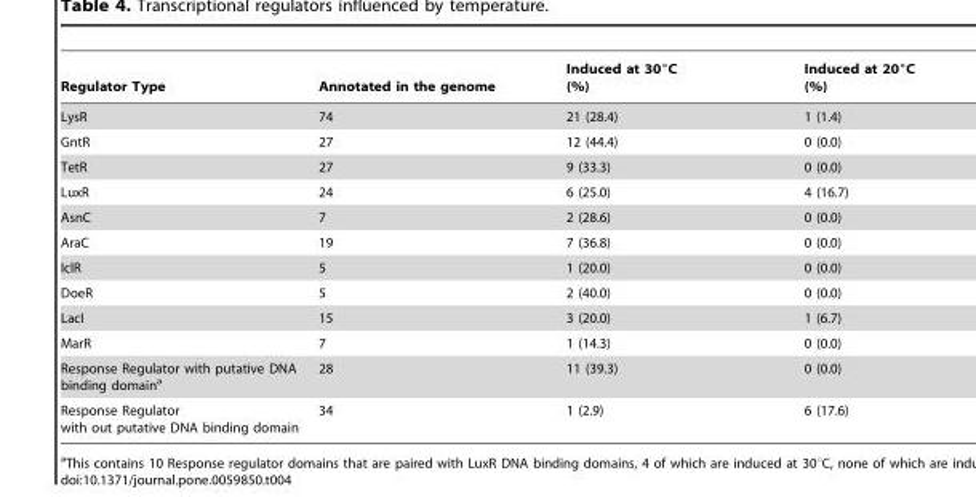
<table><thead><tr><td>Regulator Type</td><td>Annotated in the genome</td><td>Induced at 30°C (%)</td><td>Induced at 20°C (%)</td></tr></thead><tbody><tr><td>LysR</td><td>74</td><td>21 (28.4)</td><td>1 (1.4)</td></tr><tr><td>GntR</td><td>27</td><td>12 (44.4)</td><td>0 (0.0)</td></tr><tr><td>TetR</td><td>27</td><td>9 (33.3)</td><td>0 (0.0)</td></tr><tr><td>LuxR</td><td>24</td><td>6 (25.0)</td><td>4 (16.7)</td></tr><tr><td>AsnC</td><td>7</td><td>2 (28.6)</td><td>0 (0.0)</td></tr><tr><td>AraC</td><td>19</td><td>7 (36.8)</td><td>0 (0.0)</td></tr><tr><td>IclR</td><td>5</td><td>1 (20.0)</td><td>0 (0.0)</td></tr><tr><td>DoeR</td><td>5</td><td>2 (40.0)</td><td>0 (0.0)</td></tr><tr><td>LacI</td><td>15</td><td>3 (20.0)</td><td>1 (6.7)</td></tr><tr><td>MarR</td><td>7</td><td>1 (14.3)</td><td>0 (0.0)</td></tr><tr><td>Response Regulator with putative DNA binding domain<sup>a</sup></td><td>28</td><td>11 (39.3)</td><td>0 (0.0)</td></tr><tr><td>Response Regulator with out putative DNA binding domain</td><td>34</td><td>1 (2.9)</td><td>6 (17.6)</td></tr></tbody></table>